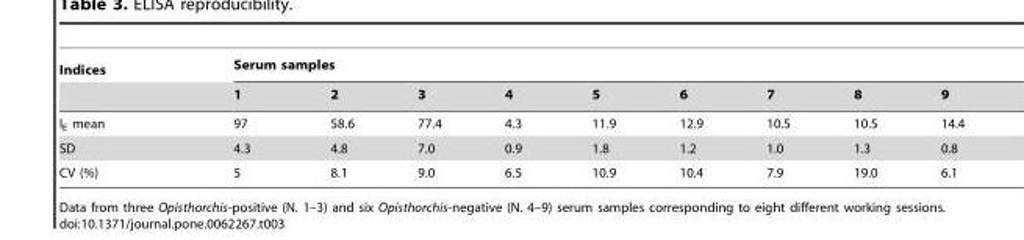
<table><thead><tr><td rowspan="2">Indices</td><td colspan="9">Serum samples</td></tr><tr><td>1</td><td>2</td><td>3</td><td>4</td><td>5</td><td>6</td><td>7</td><td>8</td><td>9</td></tr></thead><tbody><tr><td>I<sub>E</sub> mean</td><td>97</td><td>58.6</td><td>77.4</td><td>4.3</td><td>11.9</td><td>12.9</td><td>10.5</td><td>10.5</td><td>14.4</td></tr><tr><td>SD</td><td>4.3</td><td>4.8</td><td>7.0</td><td>0.9</td><td>1.8</td><td>1.2</td><td>1.0</td><td>1.3</td><td>0.8</td></tr><tr><td>CV (%)</td><td>5</td><td>8.1</td><td>9.0</td><td>6.5</td><td>10.9</td><td>10.4</td><td>7.9</td><td>19.0</td><td>6.1</td></tr></tbody></table>